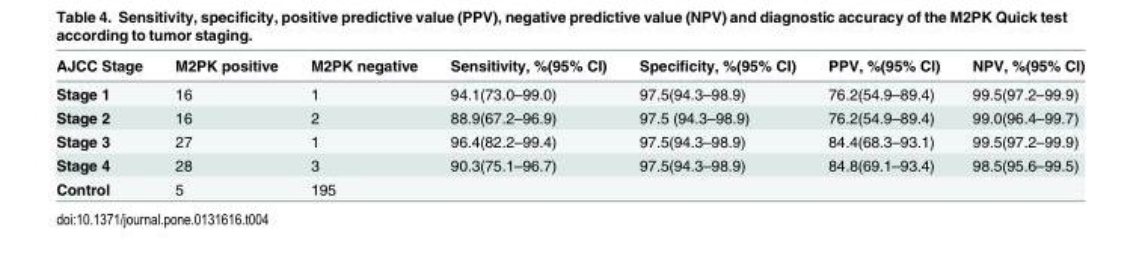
<table><thead><tr><td>AJCC Stage</td><td>M2PK positive</td><td>M2PK negative</td><td>Sensitivity, %(95% CI)</td><td>Specificity, %(95% CI)</td><td>PPV, %(95% CI)</td><td>NPV, %(95% CI)</td></tr></thead><tbody><tr><td>Stage 1</td><td>16</td><td>1</td><td>94.1(73.0–99.0)</td><td>97.5(94.3–98.9)</td><td>76.2(54.9–89.4)</td><td>99.5(97.2–99.9)</td></tr><tr><td>Stage 2</td><td>16</td><td>2</td><td>88.9(67.2–96.9)</td><td>97.5 (94.3–98.9)</td><td>76.2(54.9–89.4)</td><td>99.0(96.4–99.7)</td></tr><tr><td>Stage 3</td><td>27</td><td>1</td><td>96.4(82.2–99.4)</td><td>97.5(94.3–98.9)</td><td>84.4(68.3–93.1)</td><td>99.5(97.2–99.9)</td></tr><tr><td>Stage 4</td><td>28</td><td>3</td><td>90.3(75.1–96.7)</td><td>97.5(94.3–98.9)</td><td>84.8(69.1–93.4)</td><td>98.5(95.6–99.5)</td></tr><tr><td>Control</td><td>5</td><td>195</td><td></td><td></td><td></td><td></td></tr></tbody></table>